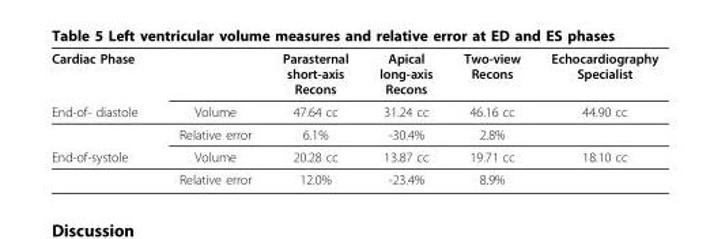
<table><thead><tr><td rowspan="2">Cardiac Phase End-of- diastole</td><td rowspan="2">Volume</td><td rowspan="2">Parasternal short-axis Recons 47.64 cc</td><td rowspan="2">Apical long-axis Recons 31.24 cc</td><td rowspan="2">Two-view Recons 46.16 cc</td><td rowspan="2">Echocardiography Specialist 44.90 cc</td></tr><tr></tr></thead><tbody><tr><td></td><td>Relative error</td><td>6.1%</td><td>-30.4%</td><td>2.8%</td><td></td></tr><tr><td rowspan="2">End-of-systole</td><td>Volume</td><td>20.28 cc</td><td>13.87 cc</td><td>19.71 cc</td><td>18.10 cc</td></tr><tr><td>Relative error</td><td>12.0%</td><td>-23.4%</td><td>8.9%</td><td></td></tr></tbody></table>